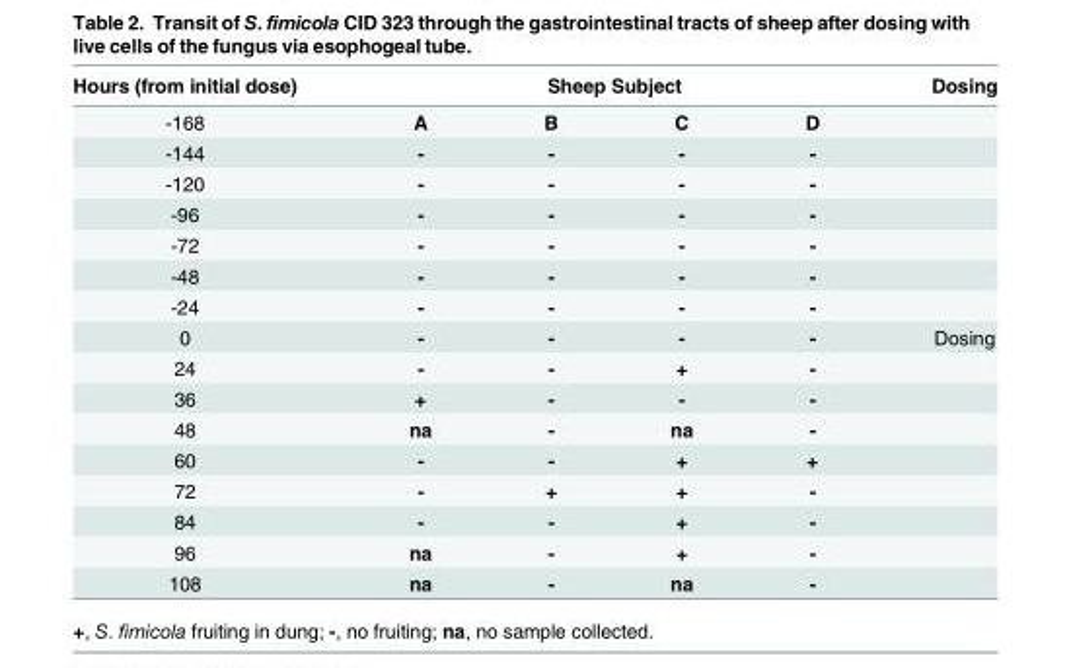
<table><thead><tr><td rowspan="2">Hours (from initial dose) -168</td><td colspan="4">Sheep Subject</td><td rowspan="2">Dosing</td></tr><tr><td>A</td><td>B</td><td>C</td><td>D</td></tr></thead><tbody><tr><td>-144</td><td>-</td><td>-</td><td>-</td><td>-</td><td></td></tr><tr><td>-120</td><td>-</td><td>-</td><td>-</td><td>-</td><td></td></tr><tr><td>-96</td><td>-</td><td>-</td><td>-</td><td>-</td><td></td></tr><tr><td>-72</td><td>-</td><td>-</td><td>-</td><td>-</td><td></td></tr><tr><td>-48</td><td>-</td><td>-</td><td>-</td><td>-</td><td></td></tr><tr><td>-24</td><td>-</td><td>-</td><td>-</td><td>-</td><td></td></tr><tr><td>0</td><td>-</td><td>-</td><td>-</td><td>-</td><td>Dosing</td></tr><tr><td>24</td><td>-</td><td>-</td><td>+</td><td>-</td><td></td></tr><tr><td>36</td><td>+</td><td>-</td><td>-</td><td>-</td><td></td></tr><tr><td>48</td><td>na</td><td>-</td><td>na</td><td>-</td><td></td></tr><tr><td>60</td><td>-</td><td>-</td><td>+</td><td>+</td><td></td></tr><tr><td>72</td><td>-</td><td>+</td><td>+</td><td>-</td><td></td></tr><tr><td>84</td><td>-</td><td>-</td><td>+</td><td>-</td><td></td></tr><tr><td>96</td><td>na</td><td>-</td><td>+</td><td>-</td><td></td></tr><tr><td>108</td><td>na</td><td>-</td><td>na</td><td>-</td><td></td></tr></tbody></table>